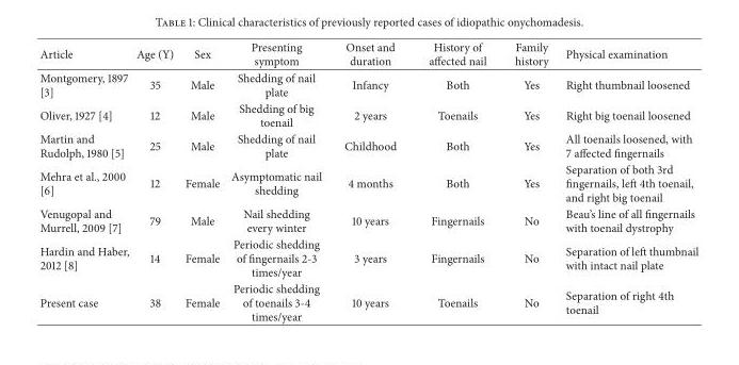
<table><thead><tr><td>Article</td><td>Age (Y)</td><td>Sex</td><td>Presenting symptom</td><td>Onset and duration</td><td>History of affected nail</td><td>Family history</td><td>Physical examination</td></tr></thead><tbody><tr><td>Montgomery, 1897 [3]</td><td>35</td><td>Male</td><td>Shedding of nail plate</td><td>Infancy</td><td>Both</td><td>Yes</td><td>Right thumbnail loosened</td></tr><tr><td>Oliver, 1927 [4]</td><td>12</td><td>Male</td><td>Shedding of big toenail</td><td>2 years</td><td>Toenails</td><td>Yes</td><td>Right big toenail loosened</td></tr><tr><td>Martin and Rudolph, 1980 [5]</td><td>25</td><td>Male</td><td>Shedding of nail plate</td><td>Childhood</td><td>Both</td><td>Yes</td><td>All toenails loosened, with 7 affected fingernails</td></tr><tr><td>Mehra et al., 2000 [6]</td><td>12</td><td>Female</td><td>Asymptomatic nail shedding</td><td>4 months</td><td>Both</td><td>Yes</td><td>Separation of both 3rd fingernails, left 4th toenail, and right big toenail</td></tr><tr><td>Venugopal and Murrell, 2009 [7]</td><td>79</td><td>Male</td><td>Nail shedding every winter</td><td>10 years</td><td>Fingernails</td><td>No</td><td>Beau’s line of all fingernails with toenail dystrophy</td></tr><tr><td>Hardin and Haber, 2012 [8]</td><td>14</td><td>Female</td><td>Periodic shedding of fingernails 2-3 times/year</td><td>3 years</td><td>Fingernails</td><td>No</td><td>Separation of left thumbnail with intact nail plate</td></tr><tr><td>Present case</td><td>38</td><td>Female</td><td>Periodic shedding of toenails 3-4 times/year</td><td>10 years</td><td>Toenails</td><td>No</td><td>Separation of right 4th toenail</td></tr></tbody></table>